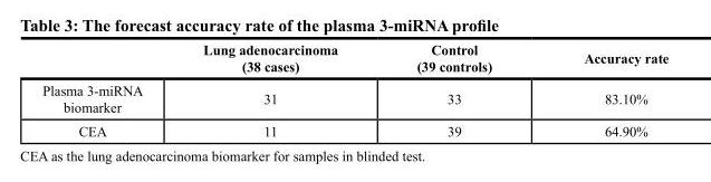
<table><thead><tr><td></td><td>Lung adenocarcinoma (38 cases)</td><td>Control (39 controls)</td><td>Accuracy rate</td></tr></thead><tbody><tr><td>Plasma 3-miRNA biomarker</td><td>31</td><td>33</td><td>83.10%</td></tr><tr><td>CEA</td><td>11</td><td>39</td><td>64.90%</td></tr></tbody></table>